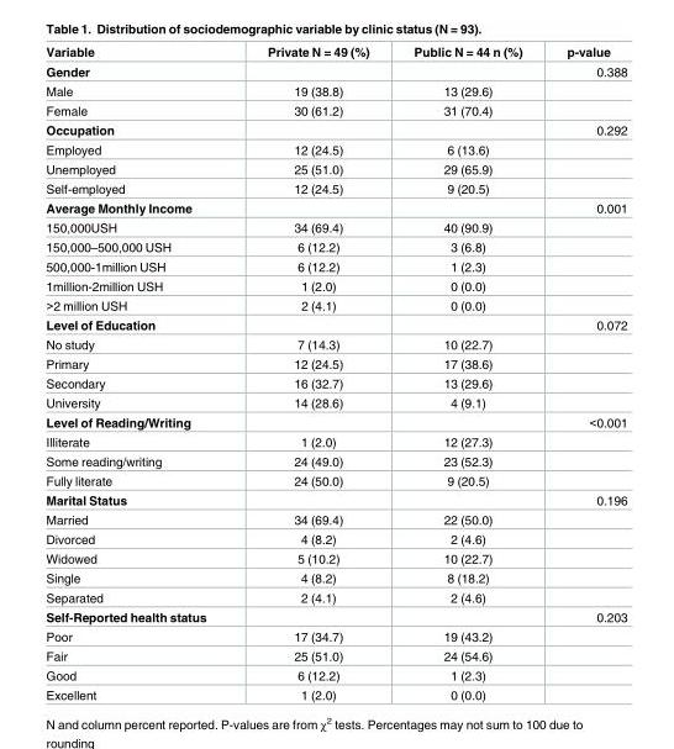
<table><thead><tr><td>Variable</td><td>Private N = 49 (%)</td><td>Public N = 44 n (%)</td><td>p-value</td></tr></thead><tbody><tr><td>Gender</td><td></td><td></td><td>0.388</td></tr><tr><td>Male</td><td>19 (38.8)</td><td>13 (29.6)</td><td></td></tr><tr><td>Female</td><td>30 (61.2)</td><td>31 (70.4)</td><td></td></tr><tr><td>Occupation</td><td></td><td></td><td>0.292</td></tr><tr><td>Employed</td><td>12 (24.5)</td><td>6 (13.6)</td><td></td></tr><tr><td>Unemployed</td><td>25 (51.0)</td><td>29 (65.9)</td><td></td></tr><tr><td>Self-employed</td><td>12 (24.5)</td><td>9 (20.5)</td><td></td></tr><tr><td>Average Monthly Income</td><td></td><td></td><td>0.001</td></tr><tr><td>150,000USH</td><td>34 (69.4)</td><td>40 (90.9)</td><td></td></tr><tr><td>150,000–500,000 USH</td><td>6 (12.2)</td><td>3 (6.8)</td><td></td></tr><tr><td>500,000-1million USH</td><td>6 (12.2)</td><td>1 (2.3)</td><td></td></tr><tr><td>1million-2million USH</td><td>1 (2.0)</td><td>0 (0.0)</td><td></td></tr><tr><td>&gt;2 million USH</td><td>2 (4.1)</td><td>0 (0.0)</td><td></td></tr><tr><td>Level of Education</td><td></td><td></td><td>0.072</td></tr><tr><td>No study</td><td>7 (14.3)</td><td>10 (22.7)</td><td></td></tr><tr><td>Primary</td><td>12 (24.5)</td><td>17 (38.6)</td><td></td></tr><tr><td>Secondary</td><td>16 (32.7)</td><td>13 (29.6)</td><td></td></tr><tr><td>University</td><td>14 (28.6)</td><td>4 (9.1)</td><td></td></tr><tr><td>Level of Reading/Writing</td><td></td><td></td><td>&lt;0.001</td></tr><tr><td>Illiterate</td><td>1 (2.0)</td><td>12 (27.3)</td><td></td></tr><tr><td>Some reading/writing</td><td>24 (49.0)</td><td>23 (52.3)</td><td></td></tr><tr><td>Fully literate</td><td>24 (50.0)</td><td>9 (20.5)</td><td></td></tr><tr><td>Marital Status</td><td></td><td></td><td>0.196</td></tr><tr><td>Married</td><td>34 (69.4)</td><td>22 (50.0)</td><td></td></tr><tr><td>Divorced</td><td>4 (8.2)</td><td>2 (4.6)</td><td></td></tr><tr><td>Widowed</td><td>5 (10.2)</td><td>10 (22.7)</td><td></td></tr><tr><td>Single</td><td>4 (8.2)</td><td>8 (18.2)</td><td></td></tr><tr><td>Separated</td><td>2 (4.1)</td><td>2 (4.6)</td><td></td></tr><tr><td>Self-Reported health status</td><td></td><td></td><td>0.203</td></tr><tr><td>Poor</td><td>17 (34.7)</td><td>19 (43.2)</td><td></td></tr><tr><td>Fair</td><td>25 (51.0)</td><td>24 (54.6)</td><td></td></tr><tr><td>Good</td><td>6 (12.2)</td><td>1 (2.3)</td><td></td></tr><tr><td>Excellent</td><td>1 (2.0)</td><td>0 (0.0)</td><td></td></tr></tbody></table>